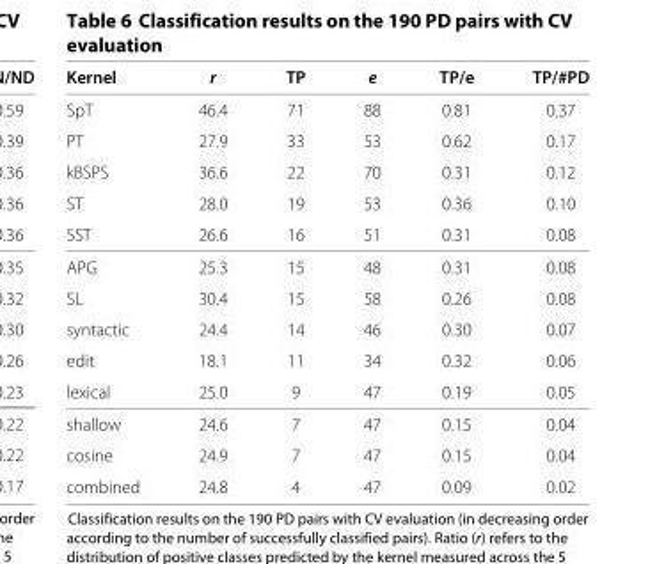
<table><thead><tr><td>Kernel</td><td>r</td><td>TP</td><td>e</td><td>TP/e</td><td>TP/#PD</td></tr></thead><tbody><tr><td>SpT</td><td>46.4</td><td>71</td><td>88</td><td>0.81</td><td>0.37</td></tr><tr><td>PT</td><td>27.9</td><td>33</td><td>53</td><td>0.62</td><td>0.17</td></tr><tr><td>kBSPS</td><td>36.6</td><td>22</td><td>70</td><td>0.31</td><td>0.12</td></tr><tr><td>ST</td><td>28.0</td><td>19</td><td>53</td><td>0.36</td><td>0.10</td></tr><tr><td>SST</td><td>26.6</td><td>16</td><td>51</td><td>0.31</td><td>0.08</td></tr><tr><td>APG</td><td>25.3</td><td>15</td><td>48</td><td>0.31</td><td>0.08</td></tr><tr><td>SL</td><td>30.4</td><td>15</td><td>58</td><td>0.26</td><td>0.08</td></tr><tr><td>syntactic</td><td>24.4</td><td>14</td><td>46</td><td>0.30</td><td>0.07</td></tr><tr><td>edit</td><td>18.1</td><td>11</td><td>34</td><td>0.32</td><td>0.06</td></tr><tr><td>lexical</td><td>25.0</td><td>9</td><td>47</td><td>0.19</td><td>0.05</td></tr><tr><td>shallow</td><td>24.6</td><td>7</td><td>47</td><td>0.15</td><td>0.04</td></tr><tr><td>cosine</td><td>24.9</td><td>7</td><td>47</td><td>0.15</td><td>0.04</td></tr><tr><td>combined</td><td>24.8</td><td>4</td><td>47</td><td>0.09</td><td>0.02</td></tr></tbody></table>